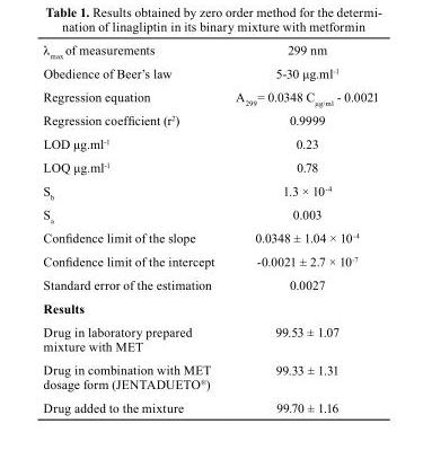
<table><tbody><tr><td>λ<sub>max</sub> of measurements</td><td>299 nm</td></tr><tr><td>Obedience of Beer’s law</td><td>5-30 μg.ml<sup>-1</sup></td></tr><tr><td>Regression equation</td><td>A<sub>299</sub>= 0.0348 C<sub>μg/ml</sub> - 0.0021</td></tr><tr><td>Regression coefficient (r<sup>2</sup>)</td><td>0.9999</td></tr><tr><td>LOD μg.ml<sup>-1</sup></td><td>0.23</td></tr><tr><td>LOQ μg.ml<sup>-1</sup></td><td>0.78</td></tr><tr><td>S<sub>b</sub></td><td>1.3 × 10<sup>-4</sup></td></tr><tr><td>S<sub>a</sub></td><td>0.003</td></tr><tr><td>Confidence limit of the slope</td><td>0.0348 ± 1.04 × 10<sup>-4</sup></td></tr><tr><td>Confidence limit of the intercept</td><td>-0.0021 ± 2.7 × 10<sup>-7</sup></td></tr><tr><td>Standard error of the estimation</td><td>0.0027</td></tr><tr><td colspan="2">results</td></tr><tr><td>Drug in laboratory prepared mixture with MET</td><td>99.53 ± 1.07</td></tr><tr><td>Drug in combination with MET dosage form (JENTADUETO<sup>®</sup>)</td><td>99.33 ± 1.31</td></tr><tr><td>Drug added to the mixture</td><td>99.70 ± 1.16</td></tr></tbody></table>